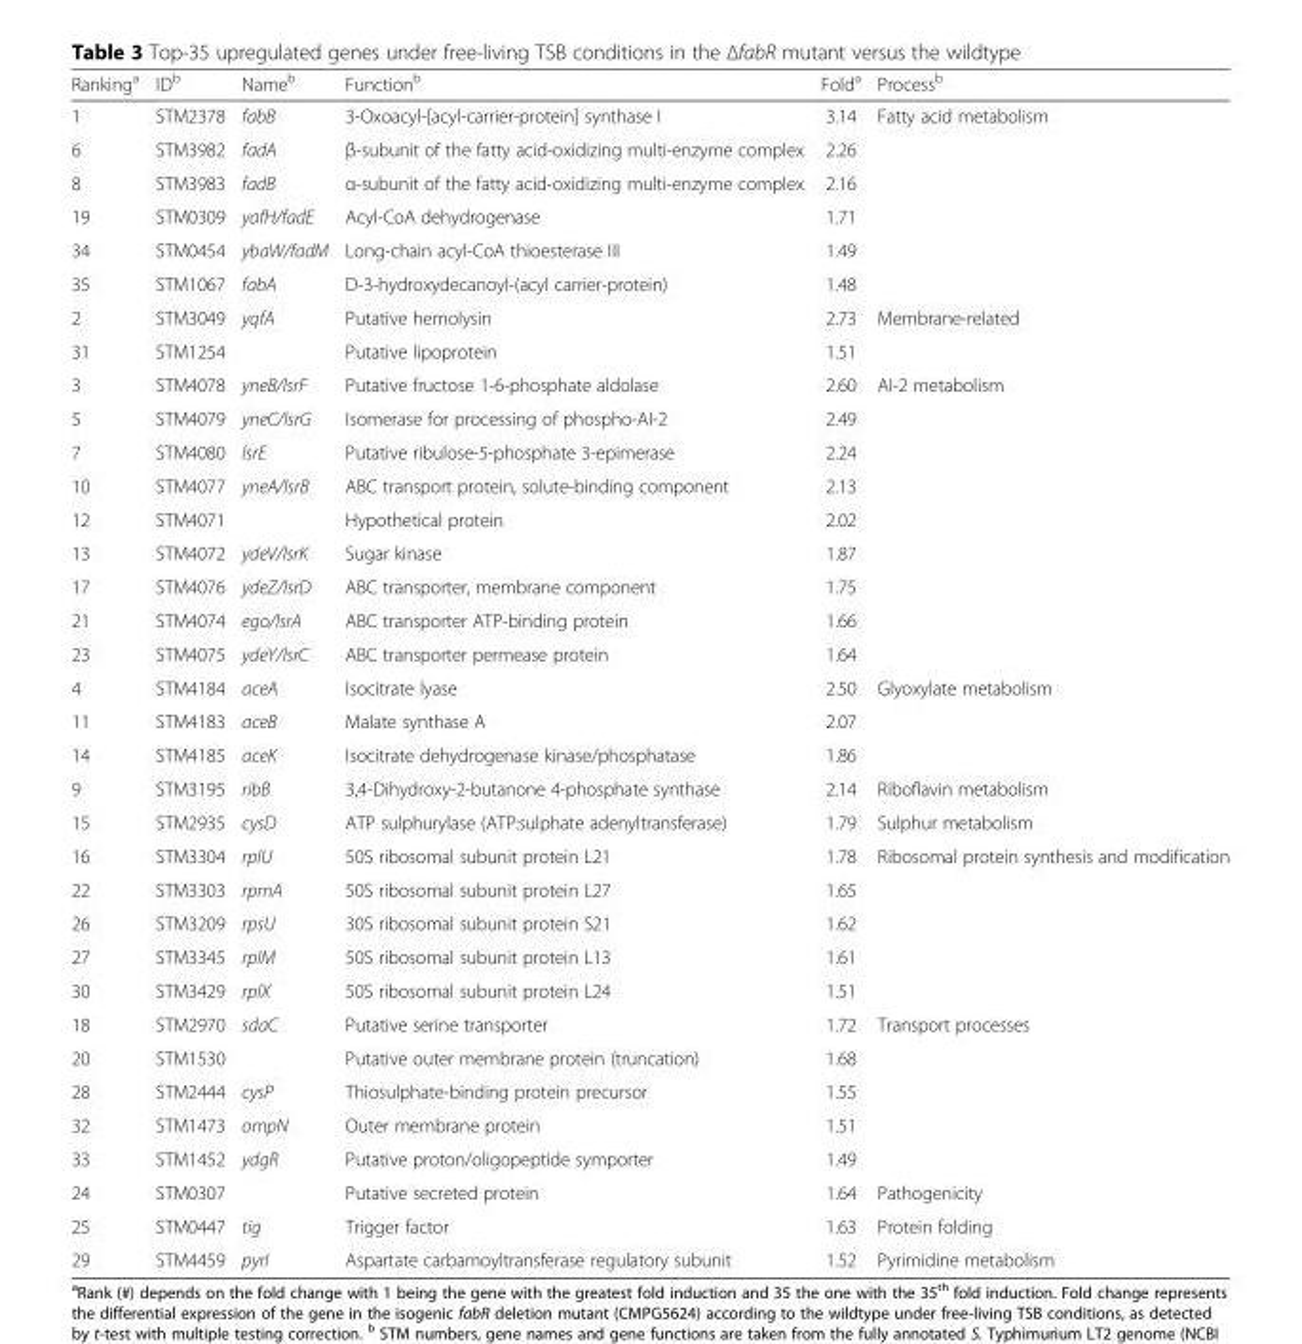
<table><thead><tr><td>Ranking<sup>a</sup></td><td>ID<sup>b</sup></td><td>Name<sup>b</sup></td><td>Function<sup>b</sup></td><td>Fold<sup>a</sup></td><td>Process<sup>b</sup></td></tr></thead><tbody><tr><td>1</td><td>STM2378</td><td>fabB</td><td>3-Oxoacyl-[acyl-carrier-protein] synthase I</td><td>3.14</td><td rowspan="6">Fatty acid metabolism</td></tr><tr><td>6</td><td>STM3982</td><td>fadA</td><td>β-subunit of the fatty acid-oxidizing multi-enzyme complex</td><td>2.26</td></tr><tr><td>8</td><td>STM3983</td><td>fadB</td><td>α-subunit of the fatty acid-oxidizing multi-enzyme complex</td><td>2.16</td></tr><tr><td>19</td><td>STM0309</td><td>yafH/fadE</td><td>Acyl-CoA dehydrogenase</td><td>1.71</td></tr><tr><td>34</td><td>STM0454</td><td>ybaW/fadM</td><td>Long-chain acyl-CoA thioesterase III</td><td>1.49</td></tr><tr><td>35</td><td>STM1067</td><td>fabA</td><td>D-3-hydroxydecanoyl-(acyl carrier-protein)</td><td>1.48</td></tr><tr><td>2</td><td>STM3049</td><td>yqfA</td><td>Putative hemolysin</td><td>2.73</td><td rowspan="2">Membrane-related</td></tr><tr><td>31</td><td>STM1254</td><td></td><td>Putative lipoprotein</td><td>1.51</td></tr><tr><td>3</td><td>STM4078</td><td>yneB/lsrF</td><td>Putative fructose 1-6-phosphate aldolase</td><td>2.60</td><td rowspan="9">AI-2 metabolism</td></tr><tr><td>5</td><td>STM4079</td><td>yneC/lsrG</td><td>Isomerase for processing of phospho-AI-2</td><td>2.49</td></tr><tr><td>7</td><td>STM4080</td><td>lsrE</td><td>Putative ribulose-5-phosphate 3-epimerase</td><td>2.24</td></tr><tr><td>10</td><td>STM4077</td><td>yneA/lsrB</td><td>ABC transport protein, solute-binding component</td><td>2.13</td></tr><tr><td>12</td><td>STM4071</td><td></td><td>Hypothetical protein</td><td>2.02</td></tr><tr><td>13</td><td>STM4072</td><td>ydeV/lsrK</td><td>Sugar kinase</td><td>1.87</td></tr><tr><td>17</td><td>STM4076</td><td>ydeZ/lsrD</td><td>ABC transporter, membrane component</td><td>1.75</td></tr><tr><td>21</td><td>STM4074</td><td>ego/lsrA</td><td>ABC transporter ATP-binding protein</td><td>1.66</td></tr><tr><td>23</td><td>STM4075</td><td>ydeY/lsrC</td><td>ABC transporter permease protein</td><td>1.64</td></tr><tr><td>4</td><td>STM4184</td><td>aceA</td><td>Isocitrate lyase</td><td>2.50</td><td rowspan="3">Glyoxylate metabolism</td></tr><tr><td>11</td><td>STM4183</td><td>aceB</td><td>Malate synthase A</td><td>2.07</td></tr><tr><td>14</td><td>STM4185</td><td>aceK</td><td>Isocitrate dehydrogenase kinase/phosphatase</td><td>1.86</td></tr><tr><td>9</td><td>STM3195</td><td>ribB</td><td>3,4-Dihydroxy-2-butanone 4-phosphate synthase</td><td>2.14</td><td>Riboflavin metabolism</td></tr><tr><td>15</td><td>STM2935</td><td>cysD</td><td>ATP sulphurylase (ATP:sulphate adenyltransferase)</td><td>1.79</td><td>Sulphur metabolism</td></tr><tr><td>16</td><td>STM3304</td><td>rplU</td><td>50S ribosomal subunit protein L21</td><td>1.78</td><td rowspan="5">Ribosomal protein synthesis and modification</td></tr><tr><td>22</td><td>STM3303</td><td>rpmA</td><td>50S ribosomal subunit protein L27</td><td>1.65</td></tr><tr><td>26</td><td>STM3209</td><td>rpsU</td><td>30S ribosomal subunit protein S21</td><td>1.62</td></tr><tr><td>27</td><td>STM3345</td><td>rplM</td><td>50S ribosomal subunit protein L13</td><td>1.61</td></tr><tr><td>30</td><td>STM3429</td><td>rplX</td><td>50S ribosomal subunit protein L24</td><td>1.51</td></tr><tr><td>18</td><td>STM2970</td><td>sdaC</td><td>Putative serine transporter</td><td>1.72</td><td rowspan="5">Transport processes</td></tr><tr><td>20</td><td>STM1530</td><td></td><td>Putative outer membrane protein (truncation)</td><td>1.68</td></tr><tr><td>28</td><td>STM2444</td><td>cysP</td><td>Thiosulphate-binding protein precursor</td><td>1.55</td></tr><tr><td>32</td><td>STM1473</td><td>ompN</td><td>Outer membrane protein</td><td>1.51</td></tr><tr><td>33</td><td>STM1452</td><td>ydgR</td><td>Putative proton/oligopeptide symporter</td><td>1.49</td></tr><tr><td>24</td><td>STM0307</td><td></td><td>Putative secreted protein</td><td>1.64</td><td>Pathogenicity</td></tr><tr><td>25</td><td>STM0447</td><td>tig</td><td>Trigger factor</td><td>1.63</td><td>Protein folding</td></tr><tr><td>29</td><td>STM4459</td><td>pyrI</td><td>Aspartate carbamoyltransferase regulatory subunit</td><td>1.52</td><td>Pyrimidine metabolism</td></tr></tbody></table>